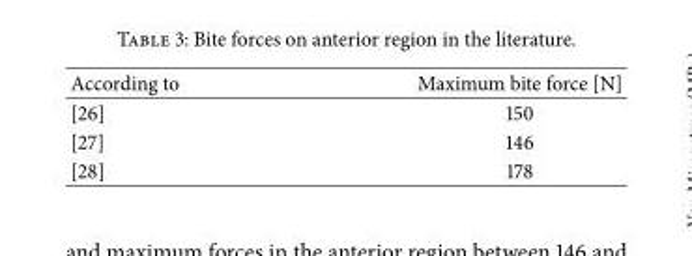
<table><thead><tr><td>According to</td><td>Maximum bite force [N]</td></tr></thead><tbody><tr><td>[26]</td><td>150</td></tr><tr><td>[27]</td><td>146</td></tr><tr><td>[28]</td><td>178</td></tr></tbody></table>